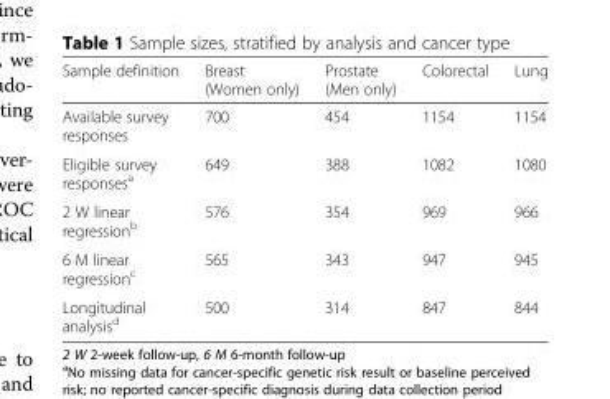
<table><thead><tr><td>Sample definition</td><td>Breast (Women only)</td><td>Prostate (Men only)</td><td>Colorectal</td><td>Lung</td></tr></thead><tbody><tr><td>Available survey responses</td><td>700</td><td>454</td><td>1154</td><td>1154</td></tr><tr><td>Eligible survey responses<sup>a</sup></td><td>649</td><td>388</td><td>1082</td><td>1080</td></tr><tr><td>2 W linear regression<sup>b</sup></td><td>576</td><td>354</td><td>969</td><td>966</td></tr><tr><td>6 M linear regression<sup>c</sup></td><td>565</td><td>343</td><td>947</td><td>945</td></tr><tr><td>Longitudinal analysis<sup>d</sup></td><td>500</td><td>314</td><td>847</td><td>844</td></tr></tbody></table>